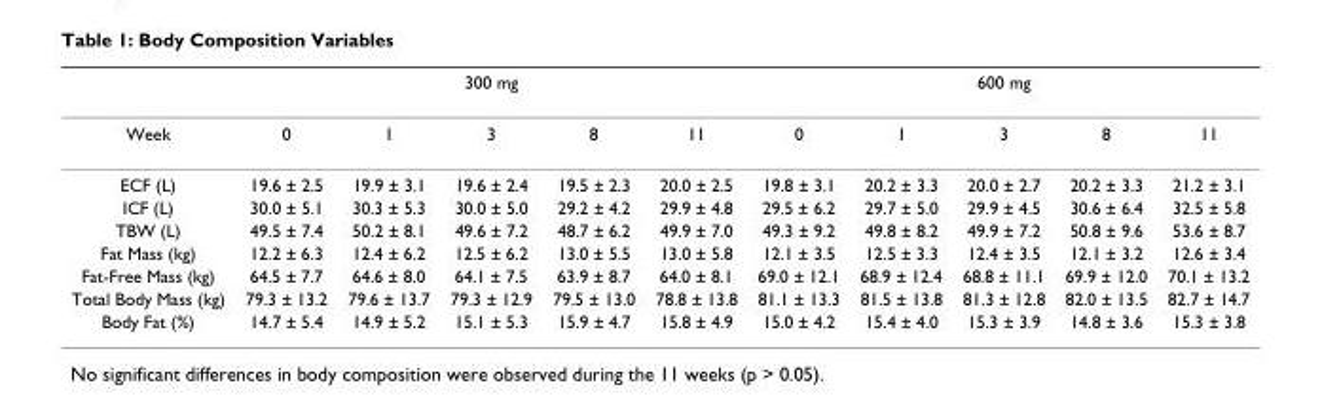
<table><thead><tr><td rowspan="2">Week</td><td colspan="5">300 mg</td><td colspan="5">600 mg</td></tr><tr><td>0</td><td>1</td><td>3</td><td>8</td><td>11</td><td>0</td><td>1</td><td>3</td><td>8</td><td>11</td></tr></thead><tbody><tr><td>ECF (L)</td><td>19.6 ± 2.5</td><td>19.9 ± 3.1</td><td>19.6 ± 2.4</td><td>19.5 ± 2.3</td><td>20.0 ± 2.5</td><td>19.8 ± 3.1</td><td>20.2 ± 3.3</td><td>20.0 ± 2.7</td><td>20.2 ± 3.3</td><td>21.2 ± 3.1</td></tr><tr><td>ICF (L)</td><td>30.0 ± 5.1</td><td>30.3 ± 5.3</td><td>30.0 ± 5.0</td><td>29.2 ± 4.2</td><td>29.9 ± 4.8</td><td>29.5 ± 6.2</td><td>29.7 ± 5.0</td><td>29.9 ± 4.5</td><td>30.6 ± 6.4</td><td>32.5 ± 5.8</td></tr><tr><td>TBW (L)</td><td>49.5 ± 7.4</td><td>50.2 ± 8.1</td><td>49.6 ± 7.2</td><td>48.7 ± 6.2</td><td>49.9 ± 7.0</td><td>49.3 ± 9.2</td><td>49.8 ± 8.2</td><td>49.9 ± 7.2</td><td>50.8 ± 9.6</td><td>53.6 ± 8.7</td></tr><tr><td>Fat Mass (kg)</td><td>12.2 ± 6.3</td><td>12.4 ± 6.2</td><td>12.5 ± 6.2</td><td>13.0 ± 5.5</td><td>13.0 ± 5.8</td><td>12.1 ± 3.5</td><td>12.5 ± 3.3</td><td>12.4 ± 3.5</td><td>12.1 ± 3.2</td><td>12.6 ± 3.4</td></tr><tr><td>Fat-Free Mass (kg)</td><td>64.5 ± 7.7</td><td>64.6 ± 8.0</td><td>64.1 ± 7.5</td><td>63.9 ± 8.7</td><td>64.0 ± 8.1</td><td>69.0 ± 12.1</td><td>68.9 ± 12.4</td><td>68.8 ± 11.1</td><td>69.9 ± 12.0</td><td>70.1 ± 13.2</td></tr><tr><td>Total Body Mass (kg)</td><td>79.3 ± 13.2</td><td>79.6 ± 13.7</td><td>79.3 ± 12.9</td><td>79.5 ± 13.0</td><td>78.8 ± 13.8</td><td>81.1 ± 13.3</td><td>81.5 ± 13.8</td><td>81.3 ± 12.8</td><td>82.0 ± 13.5</td><td>82.7 ± 14.7</td></tr><tr><td>Body Fat (%)</td><td>14.7 ± 5.4</td><td>14.9 ± 5.2</td><td>15.1 ± 5.3</td><td>15.9 ± 4.7</td><td>15.8 ± 4.9</td><td>15.0 ± 4.2</td><td>15.4 ± 4.0</td><td>15.3 ± 3.9</td><td>14.8 ± 3.6</td><td>15.3 ± 3.8</td></tr></tbody></table>